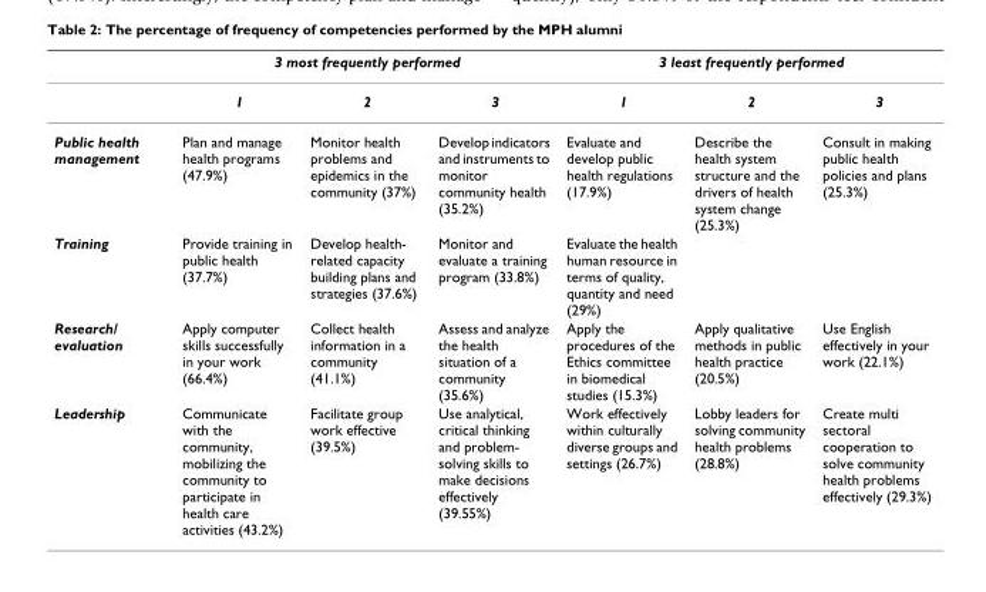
<table><thead><tr><td rowspan="2"></td><td colspan="3">3 most frequently performed</td><td colspan="3">3 least frequently performed</td></tr><tr><td>1</td><td>2</td><td>3</td><td>1</td><td>2</td><td>3</td></tr></thead><tbody><tr><td>Public health management</td><td>Plan and manage health programs (47.9%)</td><td>Monitor health problems and epidemics in the community (37%)</td><td>Develop indicators and instruments to monitor community health (35.2%)</td><td>Evaluate and develop public health regulations (17.9%)</td><td>Describe the health system structure and the drivers of health system change (25.3%)</td><td>Consult in making public health policies and plans (25.3%)</td></tr><tr><td>Training</td><td>Provide training in public health (37.7%)</td><td>Develop health- related capacity building plans and strategies (37.6%)</td><td>Monitor and evaluate a training program (33.8%)</td><td>Evaluate the health human resource in terms of quality, quantity and need (29%)</td><td></td><td></td></tr><tr><td>Research/ evaluation</td><td>Apply computer skills successfully in your work (66.4%)</td><td>Collect health information in a community (41.1%)</td><td>Assess and analyze the health situation of a community (35.6%)</td><td>Apply the procedures of the Ethics committee in biomedical studies (15.3%)</td><td>Apply qualitative methods in public health practice (20.5%)</td><td>Use English effectively in your work (22.1%)</td></tr><tr><td>Leadership</td><td>Communicate with the community, mobilizing the community to participate in health care activities (43.2%)</td><td>Facilitate group work effective (39.5%)</td><td>Use analytical, critical thinking and problem- solving skills to make decisions effectively (39.55%)</td><td>Work effectively within culturally diverse groups and settings (26.7%)</td><td>Lobby leaders for solving community health problems (28.8%)</td><td>Create multi sectoral cooperation to solve community health problems effectively (29.3%)</td></tr></tbody></table>